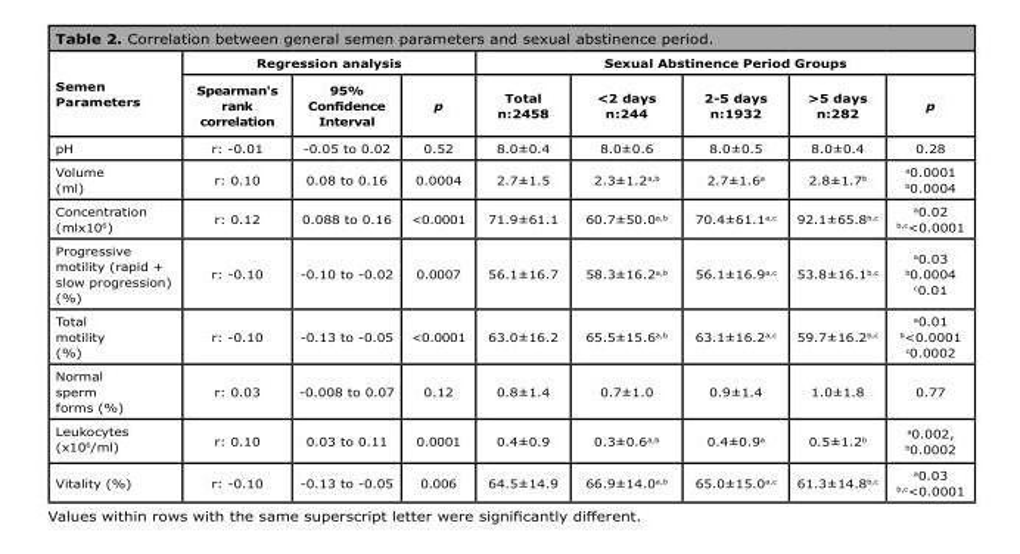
<table><thead><tr><td rowspan="2">Semen Parameters</td><td colspan="3">Regression analysis</td><td colspan="5">Sexual Abstinence Period Groups</td></tr><tr><td>Spearman&#x27;s rank correlation</td><td>95% Confidence Interval</td><td>p</td><td>Total n:2458</td><td>&lt;2 days n:244</td><td>2-5 days n:1932</td><td>&gt;5 days n:282</td><td>p</td></tr></thead><tbody><tr><td>pH</td><td>r: -0.01</td><td>-0.05 to 0.02</td><td>0.52</td><td>8.0±0.4</td><td>8.0±0.6</td><td>8.0±0.5</td><td>8.0±0.4</td><td>0.28</td></tr><tr><td>Volume (ml)</td><td>r: 0.10</td><td>0.08 to 0.16</td><td>0.0004</td><td>2.7±1.5</td><td>2.3±1.2<sup>a,b</sup></td><td>2.7±1.6<sup>a</sup></td><td>2.8±1.7<sup>b</sup></td><td><sup>a</sup>0.0001 <sup>b</sup>0.0004</td></tr><tr><td>Concentration (mlx10<sup>6</sup>)</td><td>r: 0.12</td><td>0.088 to 0.16</td><td>&lt;0.0001</td><td>71.9±61.1</td><td>60.7±50.0<sup>a,b</sup></td><td>70.4±61.1<sup>a,c</sup></td><td>92.1±65.8<sup>b,c</sup></td><td><sup>a</sup>0.02 <sup>b,c</sup>&lt;0.0001</td></tr><tr><td>Progressive motility (rapid + slow progression) (%)</td><td>r: -0.10</td><td>-0.10 to -0.02</td><td>0.0007</td><td>56.1±16.7</td><td>58.3±16.2<sup>a,b</sup></td><td>56.1±16.9<sup>a,c</sup></td><td>53.8±16.1<sup>b,c</sup></td><td><sup>a</sup>0.03 <sup>b</sup>0.0004 <sup>c</sup>0.01</td></tr><tr><td>Total motility (%)</td><td>r: -0.10</td><td>-0.13 to -0.05</td><td>&lt;0.0001</td><td>63.0±16.2</td><td>65.5±15.6<sup>a,b</sup></td><td>63.1±16.2<sup>a,c</sup></td><td>59.7±16.2<sup>b,c</sup></td><td><sup>a</sup>0.01 <sup>b</sup>&lt;0.0001 <sup>c</sup>0.0002</td></tr><tr><td>Normal sperm forms (%)</td><td>r: 0.03</td><td>-0.008 to 0.07</td><td>0.12</td><td>0.8±1.4</td><td>0.7±1.0</td><td>0.9±1.4</td><td>1.0±1.8</td><td>0.77</td></tr><tr><td>Leukocytes (x10<sup>6</sup>/ml)</td><td>r: 0.10</td><td>0.03 to 0.11</td><td>0.0001</td><td>0.4±0.9</td><td>0.3±0.6<sup>a,b</sup></td><td>0.4±0.9<sup>a</sup></td><td>0.5±1.2<sup>b</sup></td><td><sup>a</sup>0.002, <sup>b</sup>0.0002</td></tr><tr><td>Vitality (%)</td><td>r: -0.10</td><td>-0.13 to -0.05</td><td>0.006</td><td>64.5±14.9</td><td>66.9±14.0<sup>a,b</sup></td><td>65.0±15.0<sup>a,c</sup></td><td>61.3±14.8<sup>b,c</sup></td><td><sup>a</sup>0.03 <sup>b,c</sup>&lt;0.0001</td></tr></tbody></table>